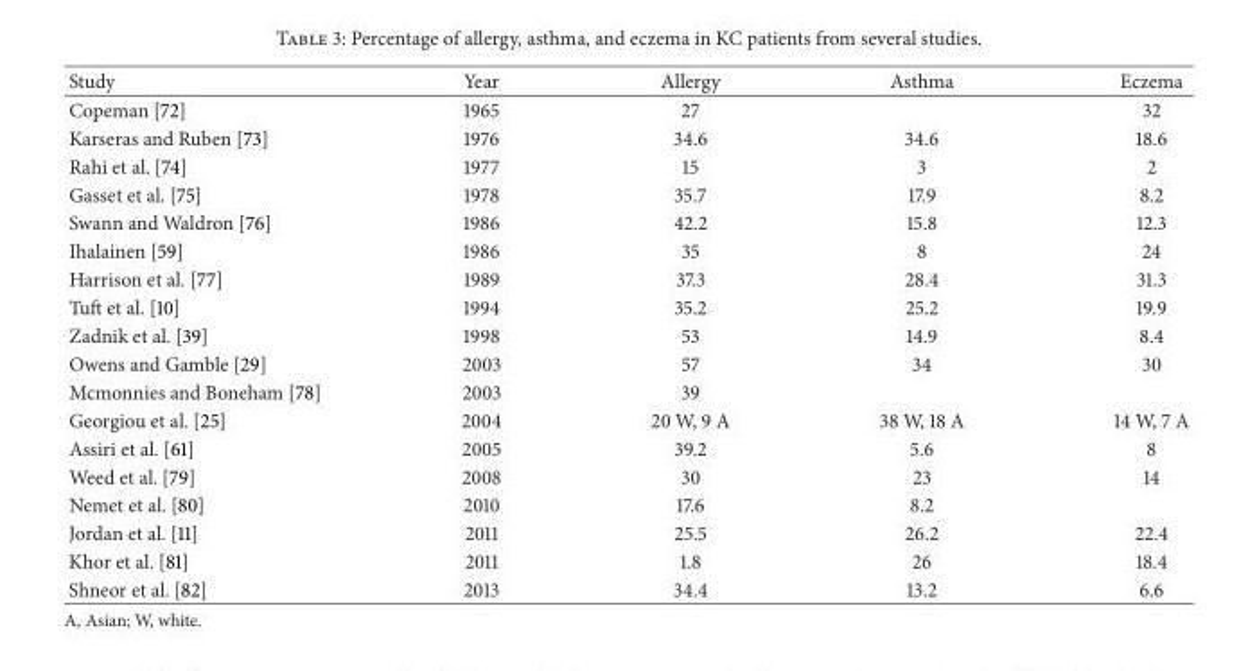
<table><thead><tr><td>Study</td><td>Year</td><td>Allergy</td><td>Asthma</td><td>Eczema</td></tr></thead><tbody><tr><td>Copeman [72]</td><td>1965</td><td>27</td><td></td><td>32</td></tr><tr><td>Karseras and Ruben [73]</td><td>1976</td><td>34.6</td><td>34.6</td><td>18.6</td></tr><tr><td>Rahi et al. [74]</td><td>1977</td><td>15</td><td>3</td><td>2</td></tr><tr><td>Gasset et al. [75]</td><td>1978</td><td>35.7</td><td>17.9</td><td>8.2</td></tr><tr><td>Swann and Waldron [76]</td><td>1986</td><td>42.2</td><td>15.8</td><td>12.3</td></tr><tr><td>Ihalainen [59]</td><td>1986</td><td>35</td><td>8</td><td>24</td></tr><tr><td>Harrison et al. [77]</td><td>1989</td><td>37.3</td><td>28.4</td><td>31.3</td></tr><tr><td>Tuft et al. [10]</td><td>1994</td><td>35.2</td><td>25.2</td><td>19.9</td></tr><tr><td>Zadnik et al. [39]</td><td>1998</td><td>53</td><td>14.9</td><td>8.4</td></tr><tr><td>Owens and Gamble [29]</td><td>2003</td><td>57</td><td>34</td><td>30</td></tr><tr><td>Mcmonnies and Boneham [78]</td><td>2003</td><td>39</td><td></td><td></td></tr><tr><td>Georgiou et al. [25]</td><td>2004</td><td>20 W, 9 A</td><td>38 W, 18 A</td><td>14 W, 7 A</td></tr><tr><td>Assiri et al. [61]</td><td>2005</td><td>39.2</td><td>5.6</td><td>8</td></tr><tr><td>Weed et al. [79]</td><td>2008</td><td>30</td><td>23</td><td>14</td></tr><tr><td>Nemet et al. [80]</td><td>2010</td><td>17.6</td><td>8.2</td><td></td></tr><tr><td>Jordan et al. [11]</td><td>2011</td><td>25.5</td><td>26.2</td><td>22.4</td></tr><tr><td>Khor et al. [81]</td><td>2011</td><td>1.8</td><td>26</td><td>18.4</td></tr><tr><td>Shneor et al. [82]</td><td>2013</td><td>34.4</td><td>13.2</td><td>6.6</td></tr></tbody></table>